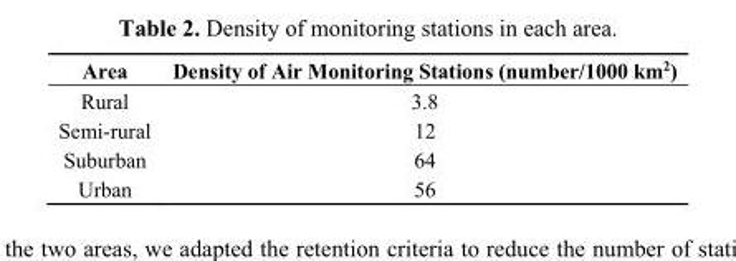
<table><thead><tr><td>Area</td><td>Density of Air Monitoring Stations (number/1000 km<sup>2</sup>)</td></tr></thead><tbody><tr><td>Rural</td><td>3.8</td></tr><tr><td>Semi-rural</td><td>12</td></tr><tr><td>Suburban</td><td>64</td></tr><tr><td>Urban</td><td>56</td></tr></tbody></table>